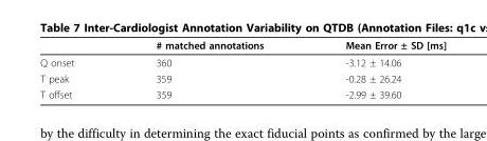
<table><thead><tr><td></td><td># matched annotations</td><td>Mean Error ± SD [ms]</td></tr></thead><tbody><tr><td>Q onset</td><td>360</td><td>-3.12 ± 14.06</td></tr><tr><td>T peak</td><td>359</td><td>-0.28 ± 26.24</td></tr><tr><td>T offset</td><td>359</td><td>-2.99 ± 39.60</td></tr></tbody></table>